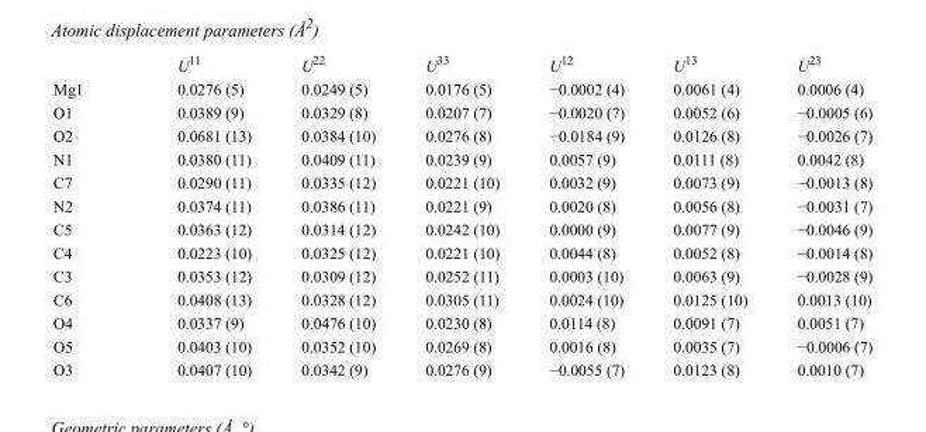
<table><thead><tr><td></td><td>U<sup>11</sup></td><td>U<sup>22</sup></td><td>U<sup>33</sup></td><td>U<sup>12</sup></td><td>U<sup>13</sup></td><td>U<sup>23</sup></td></tr></thead><tbody><tr><td>Mg1</td><td>0.0276 (5)</td><td>0.0249 (5)</td><td>0.0176 (5)</td><td>−0.0002 (4)</td><td>0.0061 (4)</td><td>0.0006 (4)</td></tr><tr><td>O1</td><td>0.0389 (9)</td><td>0.0329 (8)</td><td>0.0207 (7)</td><td>−0.0020 (7)</td><td>0.0052 (6)</td><td>−0.0005 (6)</td></tr><tr><td>O2</td><td>0.0681 (13)</td><td>0.0384 (10)</td><td>0.0276 (8)</td><td>−0.0184 (9)</td><td>0.0126 (8)</td><td>−0.0026 (7)</td></tr><tr><td>N1</td><td>0.0380 (11)</td><td>0.0409 (11)</td><td>0.0239 (9)</td><td>0.0057 (9)</td><td>0.0111 (8)</td><td>0.0042 (8)</td></tr><tr><td>C7</td><td>0.0290 (11)</td><td>0.0335 (12)</td><td>0.0221 (10)</td><td>0.0032 (9)</td><td>0.0073 (9)</td><td>−0.0013 (8)</td></tr><tr><td>N2</td><td>0.0374 (11)</td><td>0.0386 (11)</td><td>0.0221 (9)</td><td>0.0020 (8)</td><td>0.0056 (8)</td><td>−0.0031 (7)</td></tr><tr><td>C5</td><td>0.0363 (12)</td><td>0.0314 (12)</td><td>0.0242 (10)</td><td>0.0000 (9)</td><td>0.0077 (9)</td><td>−0.0046 (9)</td></tr><tr><td>C4</td><td>0.0223 (10)</td><td>0.0325 (12)</td><td>0.0221 (10)</td><td>0.0044 (8)</td><td>0.0052 (8)</td><td>−0.0014 (8)</td></tr><tr><td>C3</td><td>0.0353 (12)</td><td>0.0309 (12)</td><td>0.0252 (11)</td><td>0.0003 (10)</td><td>0.0063 (9)</td><td>−0.0028 (9)</td></tr><tr><td>C6</td><td>0.0408 (13)</td><td>0.0328 (12)</td><td>0.0305 (11)</td><td>0.0024 (10)</td><td>0.0125 (10)</td><td>0.0013 (10)</td></tr><tr><td>O4</td><td>0.0337 (9)</td><td>0.0476 (10)</td><td>0.0230 (8)</td><td>0.0114 (8)</td><td>0.0091 (7)</td><td>0.0051 (7)</td></tr><tr><td>O5</td><td>0.0403 (10)</td><td>0.0352 (10)</td><td>0.0269 (8)</td><td>0.0016 (8)</td><td>0.0035 (7)</td><td>−0.0006 (7)</td></tr><tr><td>O3</td><td>0.0407 (10)</td><td>0.0342 (9)</td><td>0.0276 (9)</td><td>−0.0055 (7)</td><td>0.0123 (8)</td><td>0.0010 (7)</td></tr></tbody></table>